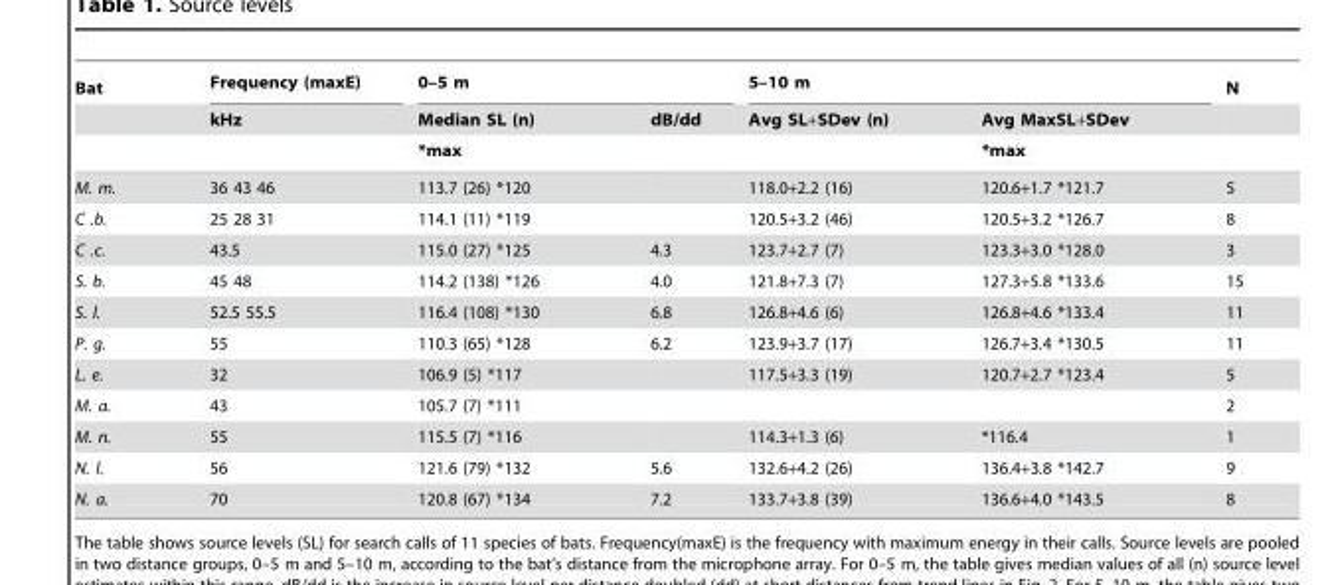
<table><thead><tr><td rowspan="3">Bat</td><td rowspan="3">Frequency (maxE) kHz</td><td colspan="2">0–5 m</td><td colspan="2">5–10 m</td><td rowspan="3">N</td></tr><tr><td rowspan="2">Median SL (n) *max</td><td rowspan="2">dB/dd</td><td rowspan="2">Avg SL+SDev (n)</td><td rowspan="2">Avg MaxSL+SDev *max</td></tr><tr></tr></thead><tbody><tr><td>M. m.</td><td>36 43 46</td><td>113.7 (26) *120</td><td></td><td>118.0+2.2 (16)</td><td>120.6+1.7 *121.7</td><td>5</td></tr><tr><td>C .b.</td><td>25 28 31</td><td>114.1 (11) *119</td><td></td><td>120.5+3.2 (46)</td><td>120.5+3.2 *126.7</td><td>8</td></tr><tr><td>C .c.</td><td>43.5</td><td>115.0 (27) *125</td><td>4.3</td><td>123.7+2.7 (7)</td><td>123.3+3.0 *128.0</td><td>3</td></tr><tr><td>S. b.</td><td>45 48</td><td>114.2 (138) *126</td><td>4.0</td><td>121.8+7.3 (7)</td><td>127.3+5.8 *133.6</td><td>15</td></tr><tr><td>S. l.</td><td>52.5 55.5</td><td>116.4 (108) *130</td><td>6.8</td><td>126.8+4.6 (6)</td><td>126.8+4.6 *133.4</td><td>11</td></tr><tr><td>P. g.</td><td>55</td><td>110.3 (65) *128</td><td>6.2</td><td>123.9+3.7 (17)</td><td>126.7+3.4 *130.5</td><td>11</td></tr><tr><td>L. e.</td><td>32</td><td>106.9 (5) *117</td><td></td><td>117.5+3.3 (19)</td><td>120.7+2.7 *123.4</td><td>5</td></tr><tr><td>M. a.</td><td>43</td><td>105.7 (7) *111</td><td></td><td></td><td></td><td>2</td></tr><tr><td>M. n.</td><td>55</td><td>115.5 (7) *116</td><td></td><td>114.3+1.3 (6)</td><td>*116.4</td><td>1</td></tr><tr><td>N. l.</td><td>56</td><td>121.6 (79) *132</td><td>5.6</td><td>132.6+4.2 (26)</td><td>136.4+3.8 *142.7</td><td>9</td></tr><tr><td>N. a.</td><td>70</td><td>120.8 (67) *134</td><td>7.2</td><td>133.7+3.8 (39)</td><td>136.6+4.0 *143.5</td><td>8</td></tr></tbody></table>